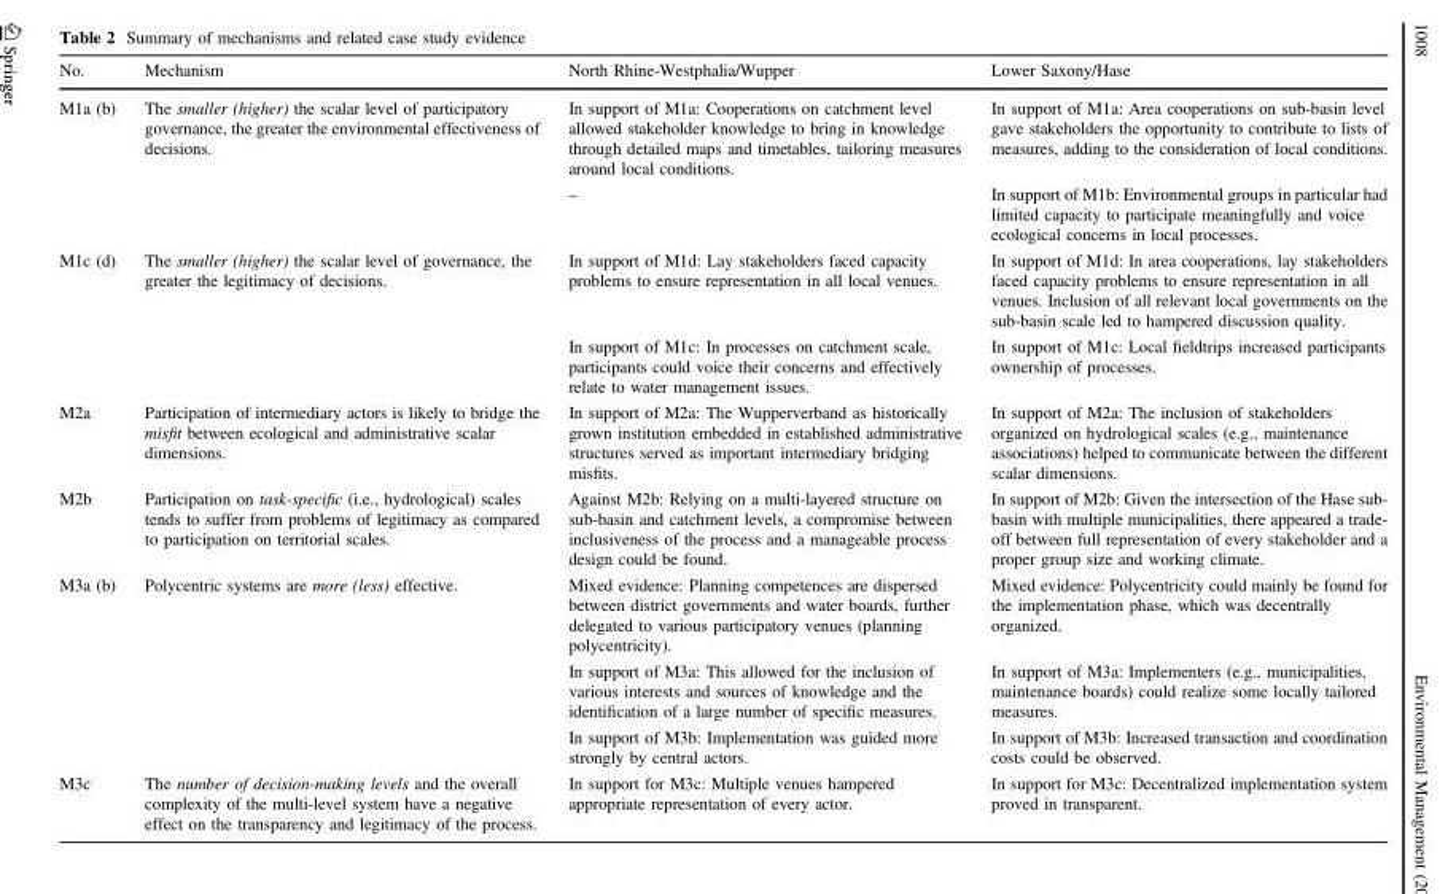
<table><thead><tr><td>No.</td><td>Mechanism</td><td>North Rhine-Westphalia/Wupper</td><td>Lower Saxony/Hase</td></tr></thead><tbody><tr><td rowspan="2">M1a (b)</td><td>The smaller (higher) the scalar level of participatory governance, the greater the environmental effectiveness of decisions.</td><td>In support of M1a: Cooperations on catchment level allowed stakeholder knowledge to bring in knowledge through detailed maps and timetables, tailoring measures around local conditions.</td><td>In support of M1a: Area cooperations on sub-basin level gave stakeholders the opportunity to contribute to lists of measures, adding to the consideration of local conditions.</td></tr><tr><td></td><td>–</td><td>In support of M1b: Environmental groups in particular had limited capacity to participate meaningfully and voice ecological concerns in local processes.</td></tr><tr><td rowspan="2">M1c (d)</td><td>The smaller (higher) the scalar level of governance, the greater the legitimacy of decisions.</td><td>In support of M1d: Lay stakeholders faced capacity problems to ensure representation in all local venues.</td><td>In support of M1d: In area cooperations, lay stakeholders faced capacity problems to ensure representation in all venues. Inclusion of all relevant local governments on the sub-basin scale led to hampered discussion quality.</td></tr><tr><td></td><td>In support of M1c: In processes on catchment scale, participants could voice their concerns and effectively relate to water management issues.</td><td>In support of M1c: Local fieldtrips increased participants ownership of processes.</td></tr><tr><td>M2a</td><td>Participation of intermediary actors is likely to bridge the misfit between ecological and administrative scalar dimensions.</td><td>In support of M2a: The Wupperverband as historically grown institution embedded in established administrative structures served as important intermediary bridging misfits.</td><td>In support of M2a: The inclusion of stakeholders organized on hydrological scales (e.g., maintenance associations) helped to communicate between the different scalar dimensions.</td></tr><tr><td>M2b</td><td>Participation on task-specific (i.e., hydrological) scales tends to suffer from problems of legitimacy as compared to participation on territorial scales.</td><td>Against M2b: Relying on a multi-layered structure on sub-basin and catchment levels, a compromise between inclusiveness of the process and a manageable process design could be found.</td><td>In support of M2b: Given the intersection of the Hase sub- basin with multiple municipalities, there appeared a trade- off between full representation of every stakeholder and a proper group size and working climate.</td></tr><tr><td rowspan="3">M3a (b)</td><td>Polycentric systems are more (less) effective.</td><td>Mixed evidence: Planning competences are dispersed between district governments and water boards, further delegated to various participatory venues (planning polycentricity).</td><td>Mixed evidence: Polycentricity could mainly be found for the implementation phase, which was decentrally organized.</td></tr><tr><td></td><td>In support of M3a: This allowed for the inclusion of various interests and sources of knowledge and the identification of a large number of specific measures.</td><td>In support of M3a: Implementers (e.g., municipalities, maintenance boards) could realize some locally tailored measures.</td></tr><tr><td></td><td>In support of M3b: Implementation was guided more strongly by central actors.</td><td>In support of M3b: Increased transaction and coordination costs could be observed.</td></tr><tr><td>M3c</td><td>The number of decision-making levels and the overall complexity of the multi-level system have a negative effect on the transparency and legitimacy of the process.</td><td>In support for M3c: Multiple venues hampered appropriate representation of every actor.</td><td>In support for M3c: Decentralized implementation system proved in transparent.</td></tr></tbody></table>